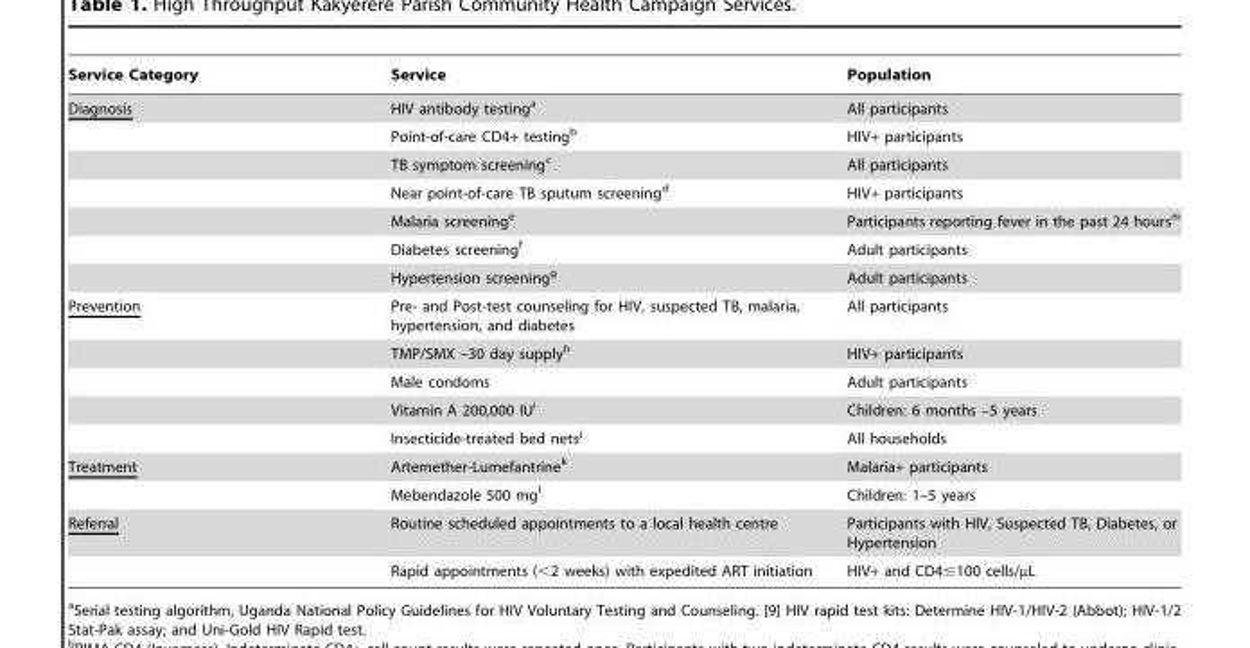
<table><thead><tr><td>Service Category</td><td>Service</td><td>Population</td></tr></thead><tbody><tr><td rowspan="7">Diagnosis</td><td>HIV antibody testing<sup>a</sup></td><td>All participants</td></tr><tr><td>Point-of-care CD4+ testing<sup>b</sup></td><td>HIV+ participants</td></tr><tr><td>TB symptom screening<sup>c</sup></td><td>All participants</td></tr><tr><td>Near point-of-care TB sputum screening<sup>d</sup></td><td>HIV+ participants</td></tr><tr><td>Malaria screening<sup>e</sup></td><td>Participants reporting fever in the past 24 hours<sup>m</sup></td></tr><tr><td>Diabetes screening<sup>f</sup></td><td>Adult participants</td></tr><tr><td>Hypertension screening<sup>g</sup></td><td>Adult participants</td></tr><tr><td rowspan="5">Prevention</td><td>Pre- and Post-test counseling for HIV, suspected TB, malaria, hypertension, and diabetes</td><td>All participants</td></tr><tr><td>TMP/SMX –30 day supply<sup>h</sup></td><td>HIV+ participants</td></tr><tr><td>Male condoms</td><td>Adult participants</td></tr><tr><td>Vitamin A 200,000 IU<sup>i</sup></td><td>Children: 6 months –5 years</td></tr><tr><td>Insecticide-treated bed nets<sup>j</sup></td><td>All households</td></tr><tr><td rowspan="2">Treatment</td><td>Artemether-Lumefantrine<sup>k</sup></td><td>Malaria+ participants</td></tr><tr><td>Mebendazole 500 mg<sup>l</sup></td><td>Children: 1–5 years</td></tr><tr><td rowspan="2">Referral</td><td>Routine scheduled appointments to a local health centre</td><td>Participants with HIV, Suspected TB, Diabetes, or Hypertension</td></tr><tr><td>Rapid appointments (&lt;2 weeks) with expedited ART initiation</td><td>HIV+ and CD4≤100 cells/µL</td></tr></tbody></table>